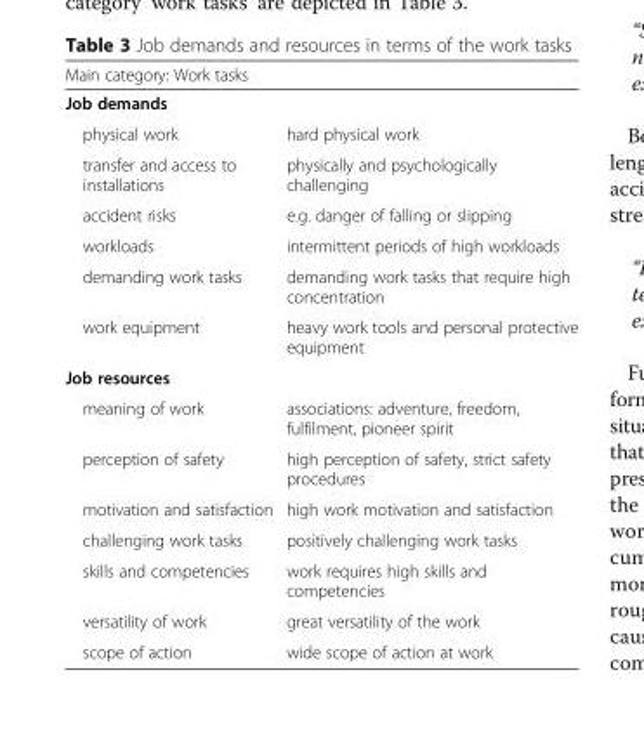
<table><thead><tr><td rowspan="2" colspan="2">Main category: Work tasks Job demands</td></tr><tr></tr><tr><td>physical work</td><td>hard physical work</td></tr></thead><tbody><tr><td>transfer and access to installations</td><td>physically and psychologically challenging</td></tr><tr><td>accident risks</td><td>e.g. danger of falling or slipping</td></tr><tr><td>workloads</td><td>intermittent periods of high workloads</td></tr><tr><td>demanding work tasks</td><td>demanding work tasks that require high concentration</td></tr><tr><td>work equipment</td><td>heavy work tools and personal protective equipment</td></tr><tr><td colspan="2">Job resources</td></tr><tr><td>meaning of work</td><td>associations: adventure, freedom, fulfilment, pioneer spirit</td></tr><tr><td>perception of safety</td><td>high perception of safety, strict safety procedures</td></tr><tr><td>motivation and satisfaction</td><td>high work motivation and satisfaction</td></tr><tr><td>challenging work tasks</td><td>positively challenging work tasks</td></tr><tr><td>skills and competencies</td><td>work requires high skills and competencies</td></tr><tr><td>versatility of work</td><td>great versatility of the work</td></tr><tr><td>scope of action</td><td>wide scope of action at work</td></tr></tbody></table>